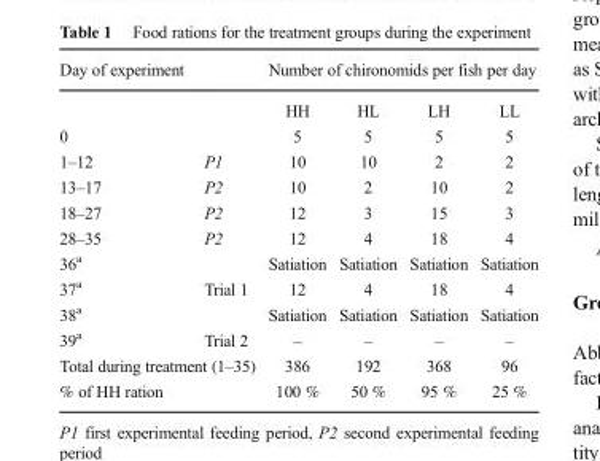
<table><thead><tr><td rowspan="2">Day of experiment</td><td rowspan="2"></td><td colspan="4">Number of chironomids per fish per day</td></tr><tr><td>HH</td><td>HL</td><td>LH</td><td>LL</td></tr></thead><tbody><tr><td>0</td><td></td><td>5</td><td>5</td><td>5</td><td>5</td></tr><tr><td>1–12</td><td>P1</td><td>10</td><td>10</td><td>2</td><td>2</td></tr><tr><td>13–17</td><td>P2</td><td>10</td><td>2</td><td>10</td><td>2</td></tr><tr><td>18–27</td><td>P2</td><td>12</td><td>3</td><td>15</td><td>3</td></tr><tr><td>28–35</td><td>P2</td><td>12</td><td>4</td><td>18</td><td>4</td></tr><tr><td>36<sup>a</sup></td><td></td><td>Satiation</td><td>Satiation</td><td>Satiation</td><td>Satiation</td></tr><tr><td>37<sup>a</sup></td><td>Trial 1</td><td>12</td><td>4</td><td>18</td><td>4</td></tr><tr><td>38<sup>a</sup></td><td></td><td>Satiation</td><td>Satiation</td><td>Satiation</td><td>Satiation</td></tr><tr><td>39<sup>a</sup></td><td>Trial 2</td><td>–</td><td>–</td><td>–</td><td>–</td></tr><tr><td colspan="2">Total during treatment (1–35)</td><td>386</td><td>192</td><td>368</td><td>96</td></tr><tr><td colspan="2">% of HH ration</td><td>100 %</td><td>50 %</td><td>95 %</td><td>25 %</td></tr></tbody></table>